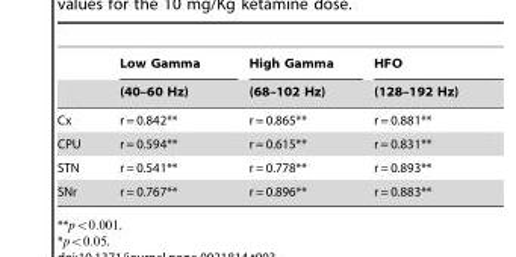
<table><thead><tr><td rowspan="2"></td><td rowspan="2">Low Gamma (40–60 Hz)</td><td rowspan="2">High Gamma (68–102 Hz)</td><td rowspan="2">HFO (128–192 Hz)</td></tr><tr></tr></thead><tbody><tr><td>Cx</td><td>r = 0.842**</td><td>r = 0.865**</td><td>r = 0.881**</td></tr><tr><td>CPU</td><td>r = 0.594**</td><td>r = 0.615**</td><td>r = 0.831**</td></tr><tr><td>STN</td><td>r = 0.541**</td><td>r = 0.778**</td><td>r = 0.893**</td></tr><tr><td>SNr</td><td>r = 0.767**</td><td>r = 0.896**</td><td>r = 0.883**</td></tr></tbody></table>